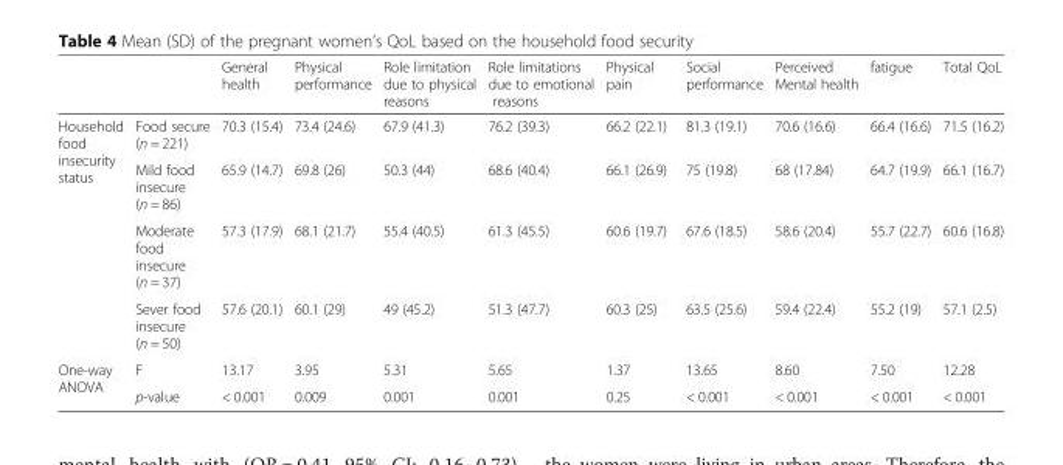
<table><thead><tr><td></td><td></td><td>General health</td><td>Physical performance</td><td>Role limitation due to physical reasons</td><td>Role limitations due to emotional reasons</td><td>Physical pain</td><td>Social performance</td><td>Perceived Mental health</td><td>fatigue</td><td>Total QoL</td></tr></thead><tbody><tr><td rowspan="4">Household food insecurity status</td><td>Food secure (n = 221)</td><td>70.3 (15.4)</td><td>73.4 (24.6)</td><td>67.9 (41.3)</td><td>76.2 (39.3)</td><td>66.2 (22.1)</td><td>81.3 (19.1)</td><td>70.6 (16.6)</td><td>66.4 (16.6)</td><td>71.5 (16.2)</td></tr><tr><td>Mild food insecure (n = 86)</td><td>65.9 (14.7)</td><td>69.8 (26)</td><td>50.3 (44)</td><td>68.6 (40.4)</td><td>66.1 (26.9)</td><td>75 (19.8)</td><td>68 (17.84)</td><td>64.7 (19.9)</td><td>66.1 (16.7)</td></tr><tr><td>Moderate food insecure (n = 37)</td><td>57.3 (17.9)</td><td>68.1 (21.7)</td><td>55.4 (40.5)</td><td>61.3 (45.5)</td><td>60.6 (19.7)</td><td>67.6 (18.5)</td><td>58.6 (20.4)</td><td>55.7 (22.7)</td><td>60.6 (16.8)</td></tr><tr><td>Sever food insecure (n = 50)</td><td>57.6 (20.1)</td><td>60.1 (29)</td><td>49 (45.2)</td><td>51.3 (47.7)</td><td>60.3 (25)</td><td>63.5 (25.6)</td><td>59.4 (22.4)</td><td>55.2 (19)</td><td>57.1 (2.5)</td></tr><tr><td rowspan="2">One-way ANOVA</td><td>F</td><td>13.17</td><td>3.95</td><td>5.31</td><td>5.65</td><td>1.37</td><td>13.65</td><td>8.60</td><td>7.50</td><td>12.28</td></tr><tr><td>p-value</td><td>&lt; 0.001</td><td>0.009</td><td>0.001</td><td>0.001</td><td>0.25</td><td>&lt; 0.001</td><td>&lt; 0.001</td><td>&lt; 0.001</td><td>&lt; 0.001</td></tr></tbody></table>